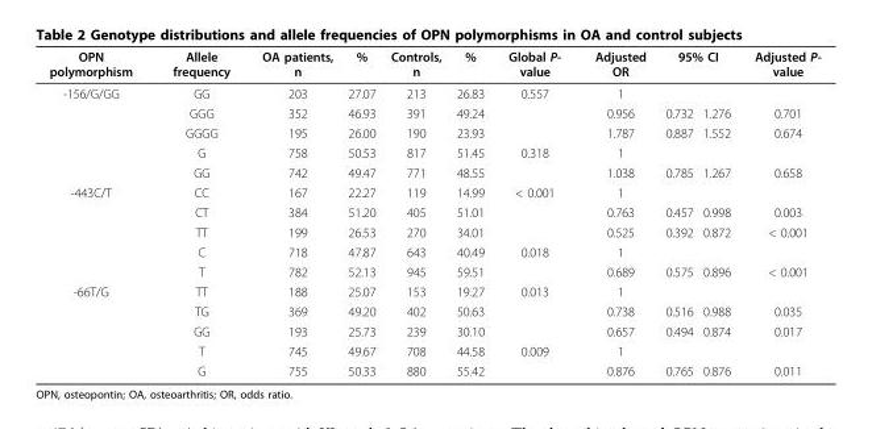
<table><thead><tr><td rowspan="2">OPN polymorphism -156/G/GG</td><td rowspan="2">Allele frequency GG</td><td rowspan="2">OA patients, n 203</td><td rowspan="2">% 27.07</td><td rowspan="2">Controls, n 213</td><td rowspan="2">% 26.83</td><td rowspan="2">Global P- value 0.557</td><td rowspan="2">Adjusted OR 1</td><td colspan="2">95% CI</td><td rowspan="2">Adjusted P- value</td></tr><tr><td></td><td></td></tr></thead><tbody><tr><td></td><td>GGG</td><td>352</td><td>46.93</td><td>391</td><td>49.24</td><td></td><td>0.956</td><td>0.732</td><td>1.276</td><td>0.701</td></tr><tr><td></td><td>GGGG</td><td>195</td><td>26.00</td><td>190</td><td>23.93</td><td></td><td>1.787</td><td>0.887</td><td>1.552</td><td>0.674</td></tr><tr><td></td><td>G</td><td>758</td><td>50.53</td><td>817</td><td>51.45</td><td>0.318</td><td>1</td><td></td><td></td><td></td></tr><tr><td></td><td>GG</td><td>742</td><td>49.47</td><td>771</td><td>48.55</td><td></td><td>1.038</td><td>0.785</td><td>1.267</td><td>0.658</td></tr><tr><td rowspan="5">-443C/T</td><td>CC</td><td>167</td><td>22.27</td><td>119</td><td>14.99</td><td>&lt; 0.001</td><td>1</td><td></td><td></td><td></td></tr><tr><td>CT</td><td>384</td><td>51.20</td><td>405</td><td>51.01</td><td></td><td>0.763</td><td>0.457</td><td>0.998</td><td>0.003</td></tr><tr><td>TT</td><td>199</td><td>26.53</td><td>270</td><td>34.01</td><td></td><td>0.525</td><td>0.392</td><td>0.872</td><td>&lt; 0.001</td></tr><tr><td>C</td><td>718</td><td>47.87</td><td>643</td><td>40.49</td><td>0.018</td><td>1</td><td></td><td></td><td></td></tr><tr><td>T</td><td>782</td><td>52.13</td><td>945</td><td>59.51</td><td></td><td>0.689</td><td>0.575</td><td>0.896</td><td>&lt; 0.001</td></tr><tr><td rowspan="5">-66T/G</td><td>TT</td><td>188</td><td>25.07</td><td>153</td><td>19.27</td><td>0.013</td><td>1</td><td></td><td></td><td></td></tr><tr><td>TG</td><td>369</td><td>49.20</td><td>402</td><td>50.63</td><td></td><td>0.738</td><td>0.516</td><td>0.988</td><td>0.035</td></tr><tr><td>GG</td><td>193</td><td>25.73</td><td>239</td><td>30.10</td><td></td><td>0.657</td><td>0.494</td><td>0.874</td><td>0.017</td></tr><tr><td>T</td><td>745</td><td>49.67</td><td>708</td><td>44.58</td><td>0.009</td><td>1</td><td></td><td></td><td></td></tr><tr><td>G</td><td>755</td><td>50.33</td><td>880</td><td>55.42</td><td></td><td>0.876</td><td>0.765</td><td>0.876</td><td>0.011</td></tr></tbody></table>